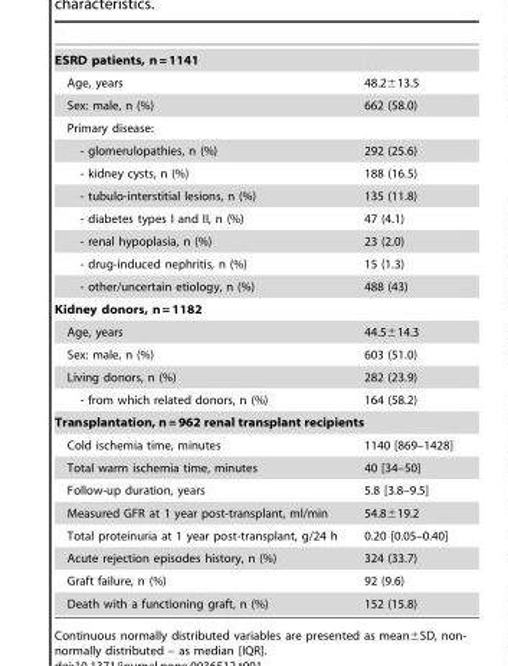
<table><tbody><tr><td colspan="2">ESRD patients, n = 1141</td></tr><tr><td>Age, years</td><td>48.2±13.5</td></tr><tr><td>Sex: male, n (%)</td><td>662 (58.0)</td></tr><tr><td colspan="2">Primary disease:</td></tr><tr><td>- glomerulopathies, n (%)</td><td>292 (25.6)</td></tr><tr><td>- kidney cysts, n (%)</td><td>188 (16.5)</td></tr><tr><td>- tubulo-interstitial lesions, n (%)</td><td>135 (11.8)</td></tr><tr><td>- diabetes types I and II, n (%)</td><td>47 (4.1)</td></tr><tr><td>- renal hypoplasia, n (%)</td><td>23 (2.0)</td></tr><tr><td>- drug-induced nephritis, n (%)</td><td>15 (1.3)</td></tr><tr><td>- other/uncertain etiology, n (%)</td><td>488 (43)</td></tr><tr><td colspan="2">Kidney donors, n = 1182</td></tr><tr><td>Age, years</td><td>44.5±14.3</td></tr><tr><td>Sex: male, n (%)</td><td>603 (51.0)</td></tr><tr><td>Living donors, n (%)</td><td>282 (23.9)</td></tr><tr><td>- from which related donors, n (%)</td><td>164 (58.2)</td></tr><tr><td colspan="2">Transplantation, n = 962 renal transplant recipients</td></tr><tr><td>Cold ischemia time, minutes</td><td>1140 [869–1428]</td></tr><tr><td>Total warm ischemia time, minutes</td><td>40 [34–50]</td></tr><tr><td>Follow-up duration, years</td><td>5.8 [3.8–9.5]</td></tr><tr><td>Measured GFR at 1 year post-transplant, ml/min</td><td>54.8±19.2</td></tr><tr><td>Total proteinuria at 1 year post-transplant, g/24 h</td><td>0.20 [0.05–0.40]</td></tr><tr><td>Acute rejection episodes history, n (%)</td><td>324 (33.7)</td></tr><tr><td>Graft failure, n (%)</td><td>92 (9.6)</td></tr><tr><td>Death with a functioning graft, n (%)</td><td>152 (15.8)</td></tr></tbody></table>